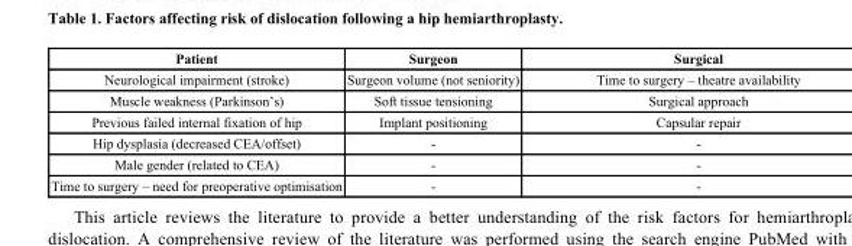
<table><thead><tr><td>Patient</td><td>Surgeon</td><td>Surgical</td></tr></thead><tbody><tr><td>Neurological impairment (stroke)</td><td>Surgeon volume (not seniority)</td><td>Time to surgery – theatre availability</td></tr><tr><td>Muscle weakness (Parkinson’s)</td><td>Soft tissue tensioning</td><td>Surgical approach</td></tr><tr><td>Previous failed internal fixation of hip</td><td>Implant positioning</td><td>Capsular repair</td></tr><tr><td>Hip dysplasia (decreased CEA/offset)</td><td>-</td><td>-</td></tr><tr><td>Male gender (related to CEA)</td><td>-</td><td>-</td></tr><tr><td>Time to surgery – need for preoperative optimisation</td><td>-</td><td>-</td></tr></tbody></table>